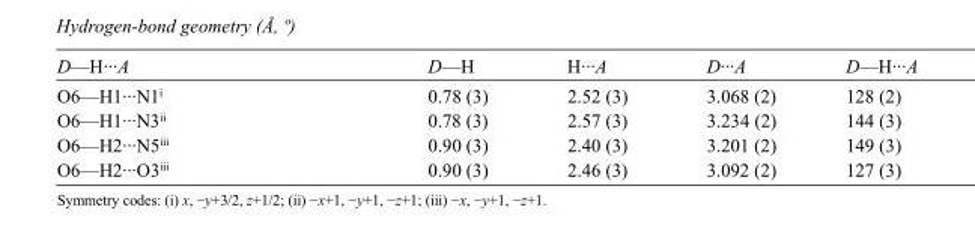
<table><tbody><tr><td>D—H···A</td><td>D—H</td><td>H···A</td><td>D···A</td><td>D—H···A</td></tr><tr><td>O6—H1···N1<sup>i</sup></td><td>0.78 (3)</td><td>2.52 (3)</td><td>3.068 (2)</td><td>128 (2)</td></tr><tr><td>O6—H1···N3<sup>ii</sup></td><td>0.78 (3)</td><td>2.57 (3)</td><td>3.234 (2)</td><td>144 (3)</td></tr><tr><td>O6—H2···N5<sup>iii</sup></td><td>0.90 (3)</td><td>2.40 (3)</td><td>3.201 (2)</td><td>149 (3)</td></tr><tr><td>O6—H2···O3<sup>iii</sup></td><td>0.90 (3)</td><td>2.46 (3)</td><td>3.092 (2)</td><td>127 (3)</td></tr></tbody></table>